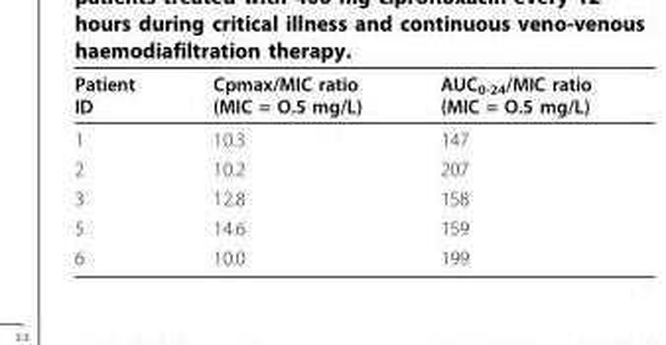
<table><thead><tr><td>Patient ID</td><td>Cpmax/MIC ratio (MIC = O.5 mg/L)</td><td>AUC<sub>0-24</sub>/MIC ratio (MIC = O.5 mg/L)</td></tr></thead><tbody><tr><td>1</td><td>10.3</td><td>147</td></tr><tr><td>2</td><td>10.2</td><td>207</td></tr><tr><td>3</td><td>12.8</td><td>158</td></tr><tr><td>5</td><td>14.6</td><td>159</td></tr><tr><td>6</td><td>10.0</td><td>199</td></tr></tbody></table>